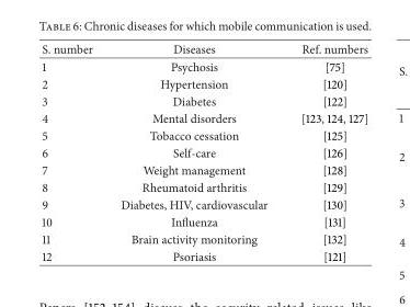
<table><thead><tr><td>S. number</td><td>Diseases</td><td>Ref. numbers</td></tr></thead><tbody><tr><td>1</td><td>Psychosis</td><td>[75]</td></tr><tr><td>2</td><td>Hypertension</td><td>[120]</td></tr><tr><td>3</td><td>Diabetes</td><td>[122]</td></tr><tr><td>4</td><td>Mental disorders</td><td>[123, 124, 127]</td></tr><tr><td>5</td><td>Tobacco cessation</td><td>[125]</td></tr><tr><td>6</td><td>Self-care</td><td>[126]</td></tr><tr><td>7</td><td>Weight management</td><td>[128]</td></tr><tr><td>8</td><td>Rheumatoid arthritis</td><td>[129]</td></tr><tr><td>9</td><td>Diabetes, HIV, cardiovascular</td><td>[130]</td></tr><tr><td>10</td><td>Influenza</td><td>[131]</td></tr><tr><td>11</td><td>Brain activity monitoring</td><td>[132]</td></tr><tr><td>12</td><td>Psoriasis</td><td>[121]</td></tr></tbody></table>